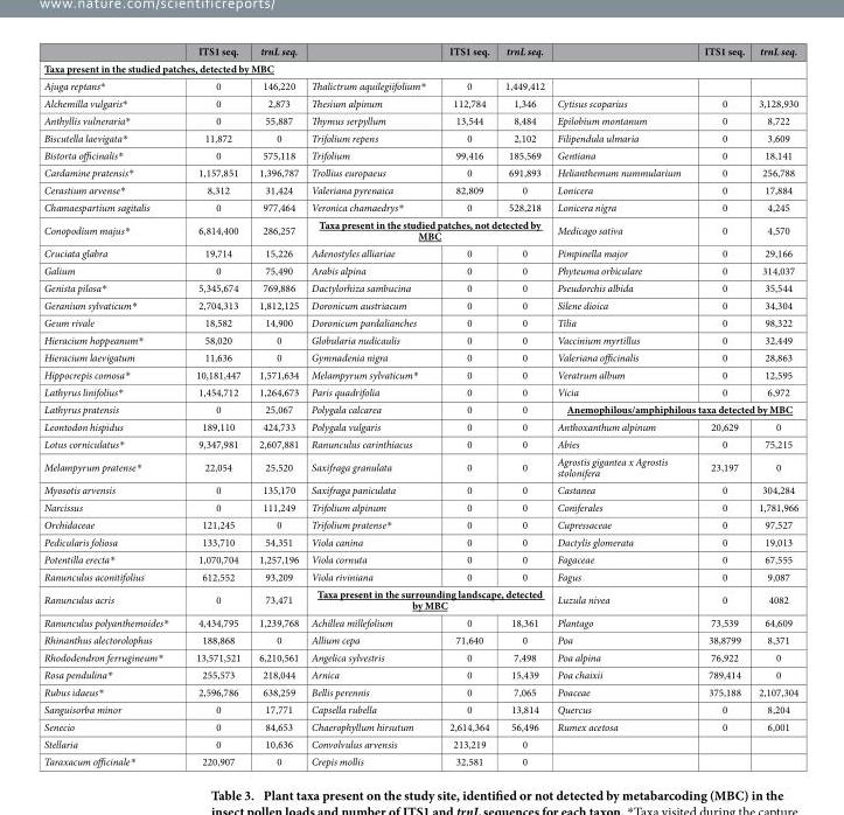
<table><thead><tr><td></td><td>ITS1 seq.</td><td>trnL seq.</td><td></td><td>ITS1 seq.</td><td>trnL seq.</td><td></td><td>ITS1 seq.</td><td>trnL seq.</td></tr></thead><tbody><tr><td colspan="9">Taxa present in the studied patches, detected by MBC</td></tr><tr><td>Ajuga reptans*</td><td>0</td><td>146,220</td><td>Thalictrum aquilegiifolium*</td><td>0</td><td>1,449,412</td><td></td><td></td><td></td></tr><tr><td>Alchemilla vulgaris*</td><td>0</td><td>2,873</td><td>Thesium alpinum</td><td>112,784</td><td>1,346</td><td>Cytisus scoparius</td><td>0</td><td>3,128,930</td></tr><tr><td>Anthyllis vulneraria*</td><td>0</td><td>55,887</td><td>Thymus serpyllum</td><td>13,544</td><td>8,484</td><td>Epilobium montanum</td><td>0</td><td>8,722</td></tr><tr><td>Biscutella laevigata*</td><td>11,872</td><td>0</td><td>Trifolium repens</td><td>0</td><td>2,102</td><td>Filipendula ulmaria</td><td>0</td><td>3,609</td></tr><tr><td>Bistorta officinalis*</td><td>0</td><td>575,118</td><td>Trifolium</td><td>99,416</td><td>185,569</td><td>Gentiana</td><td>0</td><td>18,141</td></tr><tr><td>Cardamine pratensis*</td><td>1,157,851</td><td>1,396,787</td><td>Trollius europaeus</td><td>0</td><td>691,893</td><td>Helianthemum nummularium</td><td>0</td><td>256,788</td></tr><tr><td>Cerastium arvense*</td><td>8,312</td><td>31,424</td><td>Valeriana pyrenaica</td><td>82,809</td><td>0</td><td>Lonicera</td><td>0</td><td>17,884</td></tr><tr><td>Chamaespartium sagitalis</td><td>0</td><td>977,464</td><td>Veronica chamaedrys*</td><td>0</td><td>528,218</td><td>Lonicera nigra</td><td>0</td><td>4,245</td></tr><tr><td>Conopodium majus*</td><td>6,814,400</td><td>286,257</td><td colspan="3">Taxa present in the studied patches, not detected by MBC</td><td>Medicago sativa</td><td>0</td><td>4,570</td></tr><tr><td>Cruciata glabra</td><td>19,714</td><td>15,226</td><td>Adenostyles alliariae</td><td>0</td><td>0</td><td>Pimpinella major</td><td>0</td><td>29,166</td></tr><tr><td>Galium</td><td>0</td><td>75,490</td><td>Arabis alpina</td><td>0</td><td>0</td><td>Phyteuma orbiculare</td><td>0</td><td>314,037</td></tr><tr><td>Genista pilosa*</td><td>5,345,674</td><td>769,886</td><td>Dactylorhiza sambucina</td><td>0</td><td>0</td><td>Pseudorchis albida</td><td>0</td><td>35,544</td></tr><tr><td>Geranium sylvaticum*</td><td>2,704,313</td><td>1,812,125</td><td>Doronicum austriacum</td><td>0</td><td>0</td><td>Silene dioica</td><td>0</td><td>34,304</td></tr><tr><td>Geum rivale</td><td>18,582</td><td>14,900</td><td>Doronicum pardalianches</td><td>0</td><td>0</td><td>Tilia</td><td>0</td><td>98,322</td></tr><tr><td>Hieracium hoppeanum*</td><td>58,020</td><td>0</td><td>Globularia nudicaulis</td><td>0</td><td>0</td><td>Vaccinium myrtillus</td><td>0</td><td>32,449</td></tr><tr><td>Hieracium laevigatum</td><td>11,636</td><td>0</td><td>Gymnadenia nigra</td><td>0</td><td>0</td><td>Valeriana officinalis</td><td>0</td><td>28,863</td></tr><tr><td>Hippocrepis comosa*</td><td>10,181,447</td><td>1,571,634</td><td>Melampyrum sylvaticum*</td><td>0</td><td>0</td><td>Veratrum album</td><td>0</td><td>12,595</td></tr><tr><td>Lathyrus linifolius*</td><td>1,454,712</td><td>1,264,673</td><td>Paris quadrifolia</td><td>0</td><td>0</td><td>Vicia</td><td>0</td><td>6,972</td></tr><tr><td>Lathyrus pratensis</td><td>0</td><td>25,067</td><td>Polygala calcarea</td><td>0</td><td>0</td><td colspan="3">Anemophilous/amphiphilous taxa detected by MBC</td></tr><tr><td>Leontodon hispidus</td><td>189,110</td><td>424,733</td><td>Polygala vulgaris</td><td>0</td><td>0</td><td>Anthoxanthum alpinum</td><td>20,629</td><td>0</td></tr><tr><td>Lotus corniculatus*</td><td>9,347,981</td><td>2,607,881</td><td>Ranunculus carinthiacus</td><td>0</td><td>0</td><td>Abies</td><td>0</td><td>75,215</td></tr><tr><td>Melampyrum pratense*</td><td>22,054</td><td>25,520</td><td>Saxifraga granulata</td><td>0</td><td>0</td><td>Agrostis gigantea x Agrostis stolonifera</td><td>23,197</td><td>0</td></tr><tr><td>Myosotis arvensis</td><td>0</td><td>135,170</td><td>Saxifraga paniculata</td><td>0</td><td>0</td><td>Castanea</td><td>0</td><td>304,284</td></tr><tr><td>Narcissus</td><td>0</td><td>111,249</td><td>Trifolium alpinum</td><td>0</td><td>0</td><td>Coniferales</td><td>0</td><td>1,781,966</td></tr><tr><td>Orchidaceae</td><td>121,245</td><td>0</td><td>Trifolium pratense*</td><td>0</td><td>0</td><td>Cupressaceae</td><td>0</td><td>97,527</td></tr><tr><td>Pedicularis foliosa</td><td>133,710</td><td>54,351</td><td>Viola canina</td><td>0</td><td>0</td><td>Dactylis glomerata</td><td>0</td><td>19,013</td></tr><tr><td>Potentilla erecta*</td><td>1,070,704</td><td>1,257,196</td><td>Viola cornuta</td><td>0</td><td>0</td><td>Fagaceae</td><td>0</td><td>67,555</td></tr><tr><td>Ranunculus aconitifolius</td><td>612,552</td><td>93,209</td><td>Viola riviniana</td><td>0</td><td>0</td><td>Fagus</td><td>0</td><td>9,087</td></tr><tr><td>Ranunculus acris</td><td>0</td><td>73,471</td><td colspan="3">Taxa present in the surrounding landscape, detected by MBC</td><td>Luzula nivea</td><td>0</td><td>4082</td></tr><tr><td>Ranunculus polyanthemoides*</td><td>4,434,795</td><td>1,239,768</td><td>Achillea millefolium</td><td>0</td><td>18,361</td><td>Plantago</td><td>73,539</td><td>64,609</td></tr><tr><td>Rhinanthus alectorolophus</td><td>188,868</td><td>0</td><td>Allium cepa</td><td>71,640</td><td>0</td><td>Poa</td><td>38,8799</td><td>8,371</td></tr><tr><td>Rhododendron ferrugineum*</td><td>13,571,521</td><td>6,210,561</td><td>Angelica sylvestris</td><td>0</td><td>7,498</td><td>Poa alpina</td><td>76,922</td><td>0</td></tr><tr><td>Rosa pendulina*</td><td>255,573</td><td>218,044</td><td>Arnica</td><td>0</td><td>15,439</td><td>Poa chaixii</td><td>789,414</td><td>0</td></tr><tr><td>Rubus idaeus*</td><td>2,596,786</td><td>638,259</td><td>Bellis perennis</td><td>0</td><td>7,065</td><td>Poaceae</td><td>375,188</td><td>2,107,304</td></tr><tr><td>Sanguisorba minor</td><td>0</td><td>17,771</td><td>Capsella rubella</td><td>0</td><td>13,814</td><td>Quercus</td><td>0</td><td>8,204</td></tr><tr><td>Senecio</td><td>0</td><td>84,653</td><td>Chaerophyllum hirsutum</td><td>2,614,364</td><td>56,496</td><td>Rumex acetosa</td><td>0</td><td>6,001</td></tr><tr><td>Stellaria</td><td>0</td><td>10,636</td><td>Convolvulus arvensis</td><td>213,219</td><td>0</td><td></td><td></td><td></td></tr><tr><td>Taraxacum officinale*</td><td>220,907</td><td>0</td><td>Crepis mollis</td><td>32,581</td><td>0</td><td></td><td></td><td></td></tr></tbody></table>